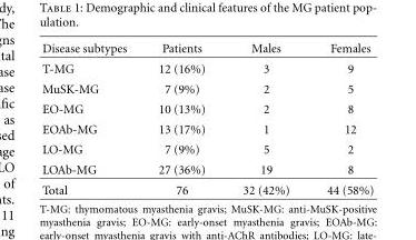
<table><thead><tr><td>Disease subtypes</td><td>Patients</td><td>Males</td><td>Females</td></tr></thead><tbody><tr><td>T-MG</td><td>12 (16%)</td><td>3</td><td>9</td></tr><tr><td>MuSK-MG</td><td>7 (9%)</td><td>2</td><td>5</td></tr><tr><td>EO-MG</td><td>10 (13%)</td><td>2</td><td>8</td></tr><tr><td>EOAb-MG</td><td>13 (17%)</td><td>1</td><td>12</td></tr><tr><td>LO-MG</td><td>7 (9%)</td><td>5</td><td>2</td></tr><tr><td>LOAb-MG</td><td>27 (36%)</td><td>19</td><td>8</td></tr><tr><td>Total</td><td>76</td><td>32 (42%)</td><td>44 (58%)</td></tr></tbody></table>